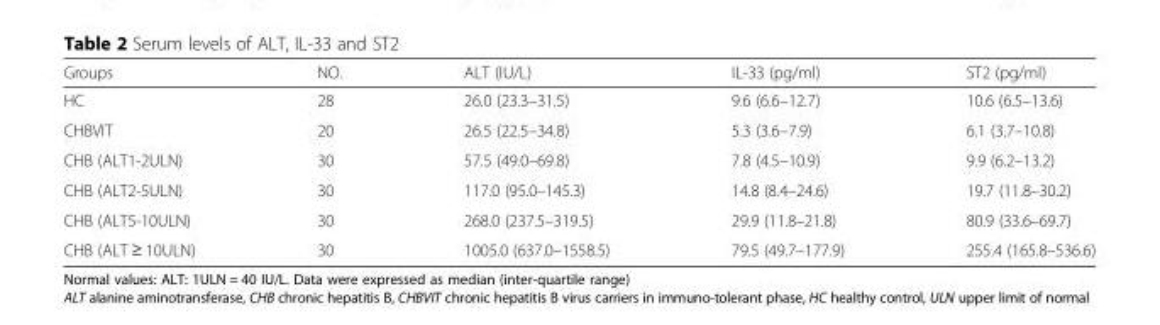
<table><thead><tr><td>Groups</td><td>NO.</td><td>ALT (IU/L)</td><td>IL-33 (pg/ml)</td><td>ST2 (pg/ml)</td></tr></thead><tbody><tr><td>HC</td><td>28</td><td>26.0 (23.3–31.5)</td><td>9.6 (6.6–12.7)</td><td>10.6 (6.5–13.6)</td></tr><tr><td>CHBVIT</td><td>20</td><td>26.5 (22.5–34.8)</td><td>5.3 (3.6–7.9)</td><td>6.1 (3.7–10.8)</td></tr><tr><td>CHB (ALT1-2ULN)</td><td>30</td><td>57.5 (49.0–69.8)</td><td>7.8 (4.5–10.9)</td><td>9.9 (6.2–13.2)</td></tr><tr><td>CHB (ALT2-5ULN)</td><td>30</td><td>117.0 (95.0–145.3)</td><td>14.8 (8.4–24.6)</td><td>19.7 (11.8–30.2)</td></tr><tr><td>CHB (ALT5-10ULN)</td><td>30</td><td>268.0 (237.5–319.5)</td><td>29.9 (11.8–21.8)</td><td>80.9 (33.6–69.7)</td></tr><tr><td>CHB (ALT ≥ 10ULN)</td><td>30</td><td>1005.0 (637.0–1558.5)</td><td>79.5 (49.7–177.9)</td><td>255.4 (165.8–536.6)</td></tr></tbody></table>